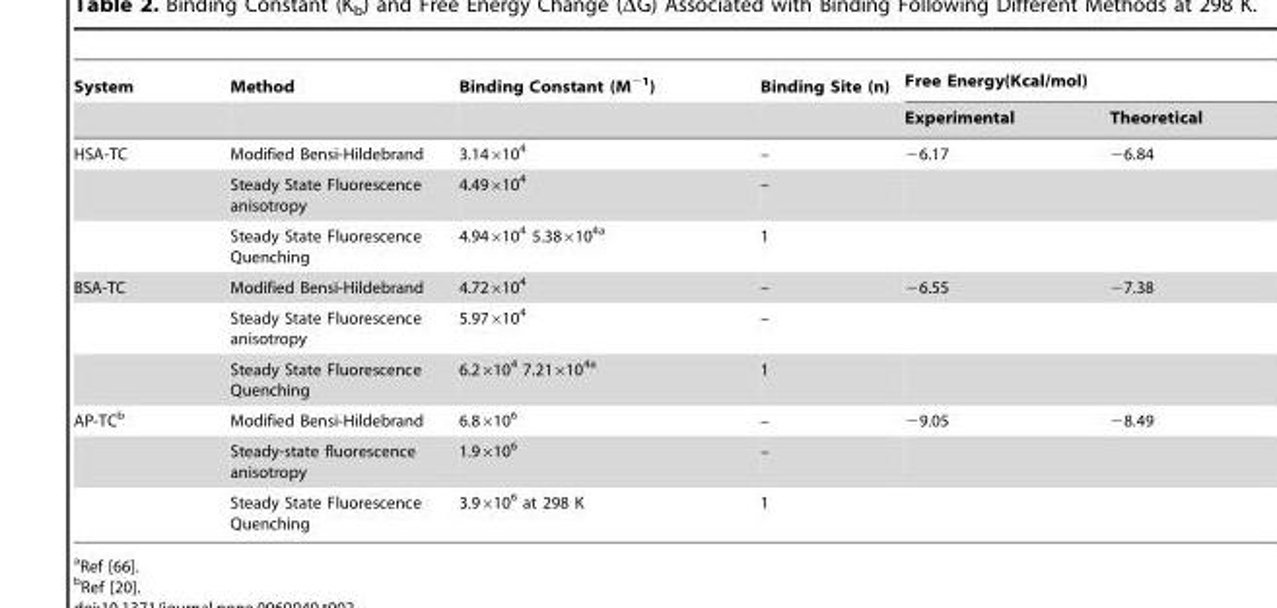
<table><thead><tr><td rowspan="2">System</td><td rowspan="2">Method</td><td rowspan="2">Binding Constant (M<sup>−1</sup>)</td><td rowspan="2">Binding Site (n)</td><td colspan="2">Free Energy(Kcal/mol)</td></tr><tr><td>Experimental</td><td>Theoretical</td></tr></thead><tbody><tr><td rowspan="3">HSA-TC</td><td>Modified Bensi-Hildebrand</td><td>3.14×10<sup>4</sup></td><td>–</td><td>−6.17</td><td>−6.84</td></tr><tr><td>Steady State Fluorescence anisotropy</td><td>4.49×10<sup>4</sup></td><td>–</td><td></td><td></td></tr><tr><td>Steady State Fluorescence Quenching</td><td>4.94×10<sup>4</sup> 5.38×10<sup>4a</sup></td><td>1</td><td></td><td></td></tr><tr><td rowspan="3">BSA-TC</td><td>Modified Bensi-Hildebrand</td><td>4.72×10<sup>4</sup></td><td>–</td><td>−6.55</td><td>−7.38</td></tr><tr><td>Steady State Fluorescence anisotropy</td><td>5.97×10<sup>4</sup></td><td>–</td><td></td><td></td></tr><tr><td>Steady State Fluorescence Quenching</td><td>6.2×10<sup>4</sup> 7.21×10<sup>4a</sup></td><td>1</td><td></td><td></td></tr><tr><td rowspan="3">AP-TC<sup>b</sup></td><td>Modified Bensi-Hildebrand</td><td>6.8×10<sup>6</sup></td><td>–</td><td>−9.05</td><td>−8.49</td></tr><tr><td>Steady-state fluorescence anisotropy</td><td>1.9×10<sup>6</sup></td><td>–</td><td></td><td></td></tr><tr><td>Steady State Fluorescence Quenching</td><td>3.9×10<sup>6</sup> at 298 K</td><td>1</td><td></td><td></td></tr></tbody></table>